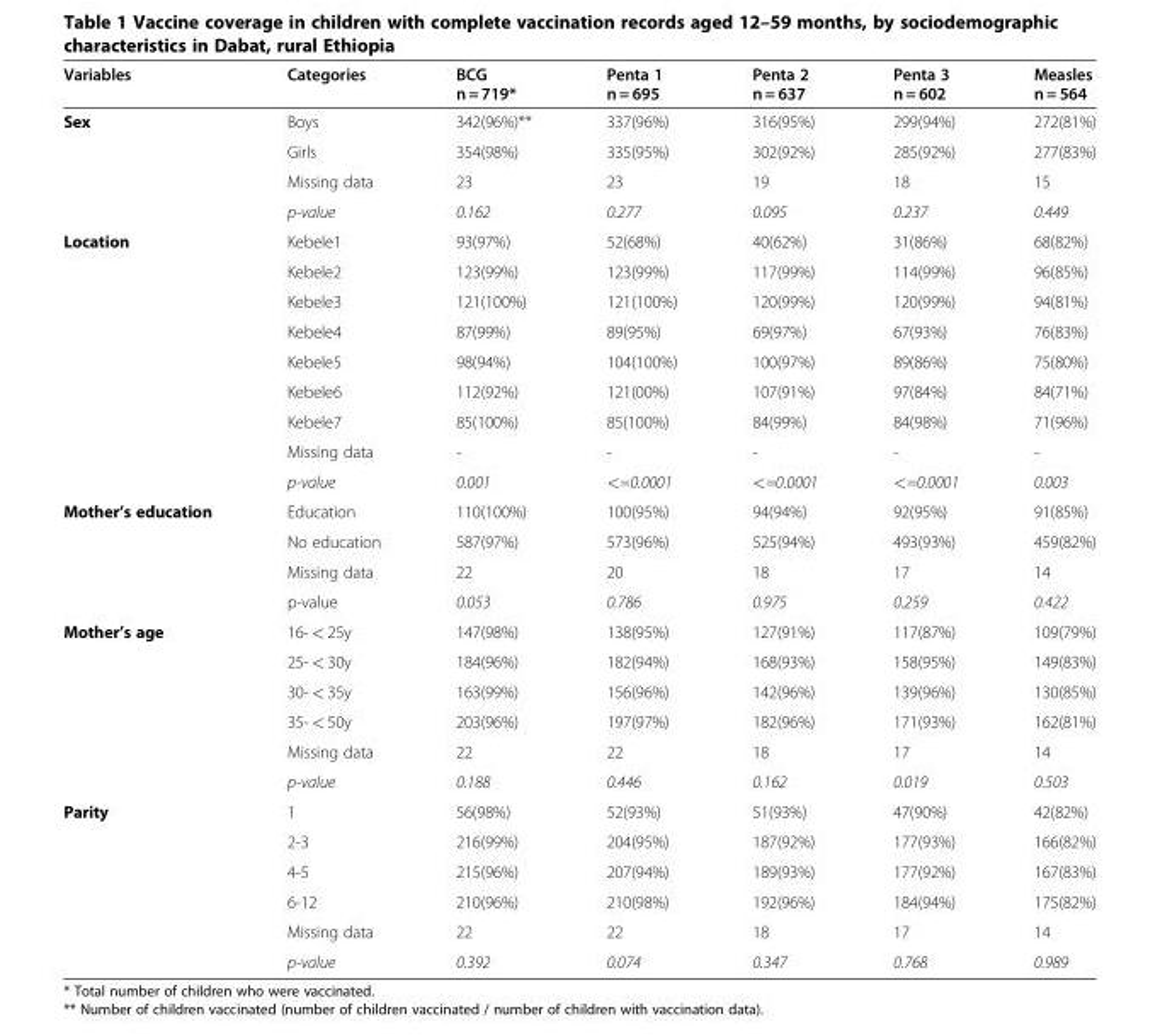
<table><thead><tr><td>Variables</td><td>Categories</td><td>BCG n = 719*</td><td>Penta 1 n = 695</td><td>Penta 2 n = 637</td><td>Penta 3 n = 602</td><td>Measles n = 564</td></tr></thead><tbody><tr><td rowspan="4">Sex</td><td>Boys</td><td>342(96%)**</td><td>337(96%)</td><td>316(95%)</td><td>299(94%)</td><td>272(81%)</td></tr><tr><td>Girls</td><td>354(98%)</td><td>335(95%)</td><td>302(92%)</td><td>285(92%)</td><td>277(83%)</td></tr><tr><td>Missing data</td><td>23</td><td>23</td><td>19</td><td>18</td><td>15</td></tr><tr><td>p-value</td><td>0.162</td><td>0.277</td><td>0.095</td><td>0.237</td><td>0.449</td></tr><tr><td rowspan="9">Location</td><td>Kebele1</td><td>93(97%)</td><td>52(68%)</td><td>40(62%)</td><td>31(86%)</td><td>68(82%)</td></tr><tr><td>Kebele2</td><td>123(99%)</td><td>123(99%)</td><td>117(99%)</td><td>114(99%)</td><td>96(85%)</td></tr><tr><td>Kebele3</td><td>121(100%)</td><td>121(100%)</td><td>120(99%)</td><td>120(99%)</td><td>94(81%)</td></tr><tr><td>Kebele4</td><td>87(99%)</td><td>89(95%)</td><td>69(97%)</td><td>67(93%)</td><td>76(83%)</td></tr><tr><td>Kebele5</td><td>98(94%)</td><td>104(100%)</td><td>100(97%)</td><td>89(86%)</td><td>75(80%)</td></tr><tr><td>Kebele6</td><td>112(92%)</td><td>121(00%)</td><td>107(91%)</td><td>97(84%)</td><td>84(71%)</td></tr><tr><td>Kebele7</td><td>85(100%)</td><td>85(100%)</td><td>84(99%)</td><td>84(98%)</td><td>71(96%)</td></tr><tr><td>Missing data</td><td>-</td><td>-</td><td>-</td><td>-</td><td>-</td></tr><tr><td>p-value</td><td>0.001</td><td>&lt;=0.0001</td><td>&lt;=0.0001</td><td>&lt;=0.0001</td><td>0.003</td></tr><tr><td rowspan="4">Mother’s education</td><td>Education</td><td>110(100%)</td><td>100(95%)</td><td>94(94%)</td><td>92(95%)</td><td>91(85%)</td></tr><tr><td>No education</td><td>587(97%)</td><td>573(96%)</td><td>525(94%)</td><td>493(93%)</td><td>459(82%)</td></tr><tr><td>Missing data</td><td>22</td><td>20</td><td>18</td><td>17</td><td>14</td></tr><tr><td>p-value</td><td>0.053</td><td>0.786</td><td>0.975</td><td>0.259</td><td>0.422</td></tr><tr><td rowspan="6">Mother’s age</td><td>16- &lt; 25y</td><td>147(98%)</td><td>138(95%)</td><td>127(91%)</td><td>117(87%)</td><td>109(79%)</td></tr><tr><td>25- &lt; 30y</td><td>184(96%)</td><td>182(94%)</td><td>168(93%)</td><td>158(95%)</td><td>149(83%)</td></tr><tr><td>30- &lt; 35y</td><td>163(99%)</td><td>156(96%)</td><td>142(96%)</td><td>139(96%)</td><td>130(85%)</td></tr><tr><td>35- &lt; 50y</td><td>203(96%)</td><td>197(97%)</td><td>182(96%)</td><td>171(93%)</td><td>162(81%)</td></tr><tr><td>Missing data</td><td>22</td><td>22</td><td>18</td><td>17</td><td>14</td></tr><tr><td>p-value</td><td>0.188</td><td>0.446</td><td>0.162</td><td>0.019</td><td>0.503</td></tr><tr><td rowspan="6">Parity</td><td>1</td><td>56(98%)</td><td>52(93%)</td><td>51(93%)</td><td>47(90%)</td><td>42(82%)</td></tr><tr><td>2-3</td><td>216(99%)</td><td>204(95%)</td><td>187(92%)</td><td>177(93%)</td><td>166(82%)</td></tr><tr><td>4-5</td><td>215(96%)</td><td>207(94%)</td><td>189(93%)</td><td>177(92%)</td><td>167(83%)</td></tr><tr><td>6-12</td><td>210(96%)</td><td>210(98%)</td><td>192(96%)</td><td>184(94%)</td><td>175(82%)</td></tr><tr><td>Missing data</td><td>22</td><td>22</td><td>18</td><td>17</td><td>14</td></tr><tr><td>p-value</td><td>0.392</td><td>0.074</td><td>0.347</td><td>0.768</td><td>0.989</td></tr></tbody></table>